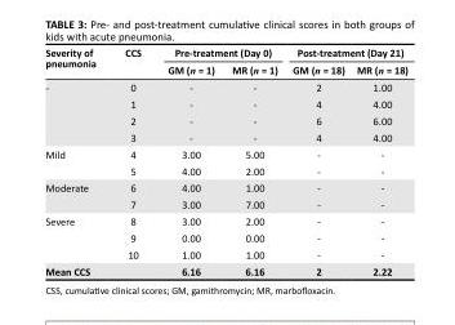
<table><thead><tr><td rowspan="2">Severity of pneumonia</td><td rowspan="2">CCS</td><td colspan="2">Pre-treatment (Day 0)</td><td colspan="2">Post-treatment (Day 21)</td></tr><tr><td>GM (n = 1)</td><td>MR (n = 1)</td><td>GM (n = 18)</td><td>MR (n = 18)</td></tr></thead><tbody><tr><td rowspan="4">-</td><td>0</td><td>-</td><td>-</td><td>2</td><td>1.00</td></tr><tr><td>1</td><td>-</td><td>-</td><td>4</td><td>4.00</td></tr><tr><td>2</td><td>-</td><td>-</td><td>6</td><td>6.00</td></tr><tr><td>3</td><td>-</td><td>-</td><td>4</td><td>4.00</td></tr><tr><td rowspan="2">Mild</td><td>4</td><td>3.00</td><td>5.00</td><td>-</td><td>-</td></tr><tr><td>5</td><td>4.00</td><td>2.00</td><td>-</td><td>-</td></tr><tr><td rowspan="2">Moderate</td><td>6</td><td>4.00</td><td>1.00</td><td>-</td><td>-</td></tr><tr><td>7</td><td>3.00</td><td>7.00</td><td>-</td><td>-</td></tr><tr><td rowspan="3">Severe</td><td>8</td><td>3.00</td><td>2.00</td><td>-</td><td>-</td></tr><tr><td>9</td><td>0.00</td><td>0.00</td><td>-</td><td>-</td></tr><tr><td>10</td><td>1.00</td><td>1.00</td><td>-</td><td>-</td></tr><tr><td>Mean CCS</td><td></td><td>6.16</td><td>6.16</td><td>2</td><td>2.22</td></tr></tbody></table>